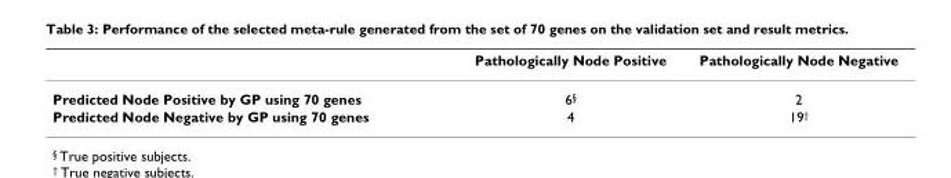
<table><thead><tr><td></td><td>Pathologically Node Positive</td><td>Pathologically Node Negative</td></tr></thead><tbody><tr><td>Predicted Node Positive by GP using 70 genes</td><td>6§</td><td>2</td></tr><tr><td>Predicted Node Negative by GP using 70 genes</td><td>4</td><td>19†</td></tr></tbody></table>